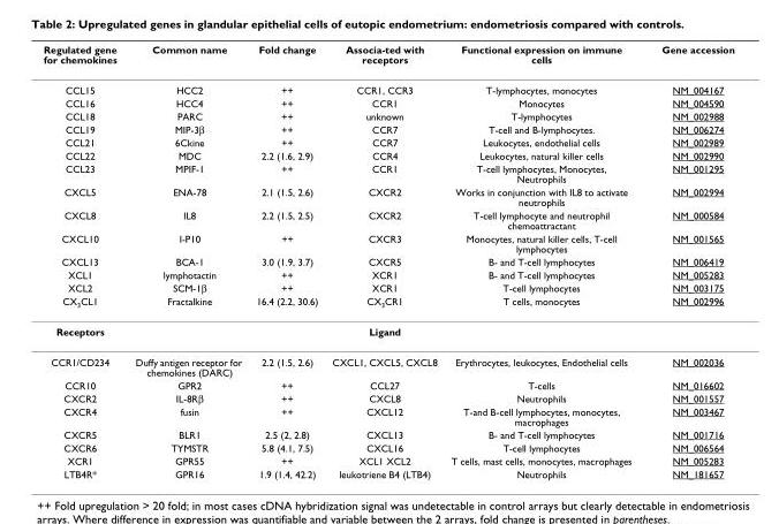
<table><thead><tr><td>Regulated gene for chemokines</td><td>Common name</td><td>Fold change</td><td>Associa-ted with receptors</td><td>Functional expression on immune cells</td><td>Gene accession</td></tr></thead><tbody><tr><td>CCL15</td><td>HCC2</td><td>++</td><td>CCR1, CCR3</td><td>T-lymphocytes, monocytes</td><td>NM_004167</td></tr><tr><td>CCL16</td><td>HCC4</td><td>++</td><td>CCR1</td><td>Monocytes</td><td>NM_004590</td></tr><tr><td>CCL18</td><td>PARC</td><td>++</td><td>unknown</td><td>T-lymphocytes</td><td>NM_002988</td></tr><tr><td>CCL19</td><td>MIP-3β</td><td>++</td><td>CCR7</td><td>T-cell and B-lymphocytes.</td><td>NM_006274</td></tr><tr><td>CCL21</td><td>6Ckine</td><td>++</td><td>CCR7</td><td>Leukocytes, endothelial cells</td><td>NM_002989</td></tr><tr><td>CCL22</td><td>MDC</td><td>2.2 (1.6, 2.9)</td><td>CCR4</td><td>Leukocytes, natural killer cells</td><td>NM_002990</td></tr><tr><td>CCL23</td><td>MPIF-1</td><td>++</td><td>CCR1</td><td>T-cell lymphocytes, Monocytes, Neutrophils</td><td>NM_001295</td></tr><tr><td>CXCL5</td><td>ENA-78</td><td>2.1 (1.5, 2.6)</td><td>CXCR2</td><td>Works in conjunction with IL8 to activate neutrophils</td><td>NM_002994</td></tr><tr><td>CXCL8</td><td>IL8</td><td>2.2 (1.5, 2.5)</td><td>CXCR2</td><td>T-cell lymphocyte and neutrophil chemoattractant</td><td>NM_000584</td></tr><tr><td>CXCL10</td><td>I-P10</td><td>++</td><td>CXCR3</td><td>Monocytes, natural killer cells, T-cell lymphocytes</td><td>NM_001565</td></tr><tr><td>CXCL13</td><td>BCA-1</td><td>3.0 (1.9, 3.7)</td><td>CXCR5</td><td>B- and T-cell lymphocytes</td><td>NM_006419</td></tr><tr><td>XCL1</td><td>lymphotactin</td><td>++</td><td>XCR1</td><td>B- and T-cell lymphocytes</td><td>NM_005283</td></tr><tr><td>XCL2</td><td>SCM-1β</td><td>++</td><td>XCR1</td><td>T-cell lymphocytes</td><td>NM_003175</td></tr><tr><td>CX<sub>3</sub>CL1</td><td>Fractalkine</td><td>16.4 (2.2, 30.6)</td><td>CX<sub>3</sub>CR1</td><td>T cells, monocytes</td><td>NM_002996</td></tr><tr><td>Receptors</td><td></td><td></td><td>Ligand</td><td></td><td></td></tr><tr><td>CCR1/CD234</td><td>Duffy antigen receptor for chemokines (DARC)</td><td>2.2 (1.5, 2.6)</td><td>CXCL1, CXCL5, CXCL8</td><td>Erythrocytes, leukocytes, Endothelial cells</td><td>NM_002036</td></tr><tr><td>CCR10</td><td>GPR2</td><td>++</td><td>CCL27</td><td>T-cells</td><td>NM_016602</td></tr><tr><td>CXCR2</td><td>IL-8Rβ</td><td>++</td><td>CXCL8</td><td>Neutrophils</td><td>NM_001557</td></tr><tr><td>CXCR4</td><td>fusin</td><td>++</td><td>CXCL12</td><td>T-and B-cell lymphocytes, monocytes, macrophages</td><td>NM_003467</td></tr><tr><td>CXCR5</td><td>BLR1</td><td>2.5 (2, 2.8)</td><td>CXCL13</td><td>B- and T-cell lymphocytes</td><td>NM_001716</td></tr><tr><td>CXCR6</td><td>TYMSTR</td><td>5.8 (4.1, 7.5)</td><td>CXCL16</td><td>T-cell lymphocytes</td><td>NM_006564</td></tr><tr><td>XCR1</td><td>GPR55</td><td>++</td><td>XCL1 XCL2</td><td>T cells, mast cells, monocytes, macrophages</td><td>NM_005283</td></tr><tr><td>LTB4R*</td><td>GPR16</td><td>1.9 (1.4, 42.2)</td><td>leukotriene B4 (LTB4)</td><td>Neutrophils</td><td>NM_181657</td></tr></tbody></table>